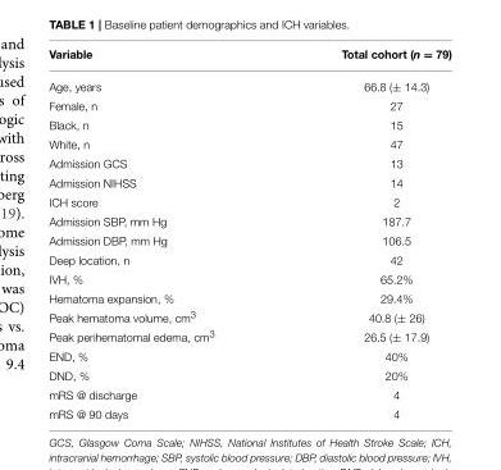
<table><thead><tr><td>Variable</td><td>Total cohort (n = 79)</td></tr></thead><tbody><tr><td>Age, years</td><td>66.8 (± 14.3)</td></tr><tr><td>Female, n</td><td>27</td></tr><tr><td>Black, n</td><td>15</td></tr><tr><td>White, n</td><td>47</td></tr><tr><td>Admission GCS</td><td>13</td></tr><tr><td>Admission NIHSS</td><td>14</td></tr><tr><td>ICH score</td><td>2</td></tr><tr><td>Admission SBP, mm Hg</td><td>187.7</td></tr><tr><td>Admission DBP, mm Hg</td><td>106.5</td></tr><tr><td>Deep location, n</td><td>42</td></tr><tr><td>IVH, %</td><td>65.2%</td></tr><tr><td>Hematoma expansion, %</td><td>29.4%</td></tr><tr><td>Peak hematoma volume, cm<sup>3</sup></td><td>40.8 (± 26)</td></tr><tr><td>Peak perihematomal edema, cm<sup>3</sup></td><td>26.5 (± 17.9)</td></tr><tr><td>END, %</td><td>40%</td></tr><tr><td>DND, %</td><td>20%</td></tr><tr><td>mRS @ discharge</td><td>4</td></tr><tr><td>mRS @ 90 days</td><td>4</td></tr></tbody></table>